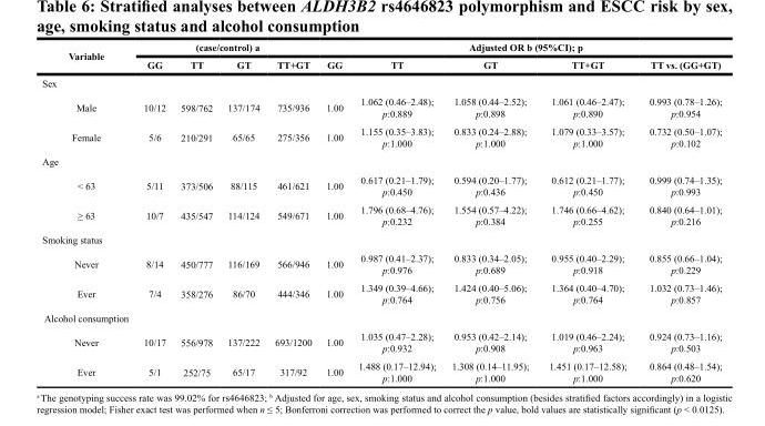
<table><thead><tr><td rowspan="2">Variable</td><td colspan="4">(case/control) a</td><td colspan="5">Adjusted OR b (95%CI); p</td></tr><tr><td>GG</td><td>TT</td><td>GT</td><td>TT+GT</td><td>GG</td><td>TT</td><td>GT</td><td>TT+GT</td><td>TT vs. (GG+GT)</td></tr></thead><tbody><tr><td colspan="10">Sex</td></tr><tr><td>Male</td><td>10/12</td><td>598/762</td><td>137/174</td><td>735/936</td><td>1.00</td><td>1.062 (0.46–2.48); p:0.889</td><td>1.058 (0.44–2.52); p:0.898</td><td>1.061 (0.46–2.47); p:0.890</td><td>0.993 (0.78–1.26); p:0.954</td></tr><tr><td>Female</td><td>5/6</td><td>210/291</td><td>65/65</td><td>275/356</td><td>1.00</td><td>1.155 (0.35–3.83); p:1.000</td><td>0.833 (0.24–2.88); p:1.000</td><td>1.079 (0.33–3.57); p:1.000</td><td>0.732 (0.50–1.07); p:0.102</td></tr><tr><td colspan="10">Age</td></tr><tr><td>&lt; 63</td><td>5/11</td><td>373/506</td><td>88/115</td><td>461/621</td><td>1.00</td><td>0.617 (0.21–1.79); p:0.450</td><td>0.594 (0.20–1.77); p:0.436</td><td>0.612 (0.21–1.77); p:0.450</td><td>0.999 (0.74–1.35); p:0.993</td></tr><tr><td>≥ 63</td><td>10/7</td><td>435/547</td><td>114/124</td><td>549/671</td><td>1.00</td><td>1.796 (0.68–4.76); p:0.232</td><td>1.554 (0.57–4.22); p:0.384</td><td>1.746 (0.66–4.62); p:0.255</td><td>0.840 (0.64–1.01); p:0.216</td></tr><tr><td colspan="10">Smoking status</td></tr><tr><td>Never</td><td>8/14</td><td>450/777</td><td>116/169</td><td>566/946</td><td>1.00</td><td>0.987 (0.41–2.37); p:0.976</td><td>0.833 (0.34–2.05); p:0.689</td><td>0.955 (0.40–2.29); p:0.918</td><td>0.855 (0.66–1.04); p:0.229</td></tr><tr><td>Ever</td><td>7/4</td><td>358/276</td><td>86/70</td><td>444/346</td><td>1.00</td><td>1.349 (0.39–4.66); p:0.764</td><td>1.424 (0.40–5.06); p:0.756</td><td>1.364 (0.40–4.70); p:0.764</td><td>1.032 (0.73–1.46); p:0.857</td></tr><tr><td colspan="10">Alcohol consumption</td></tr><tr><td>Never</td><td>10/17</td><td>556/978</td><td>137/222</td><td>693/1200</td><td>1.00</td><td>1.035 (0.47–2.28); p:0.932</td><td>0.953 (0.42–2.14); p:0.908</td><td>1.019 (0.46–2.24); p:0.963</td><td>0.924 (0.73–1.16); p:0.503</td></tr><tr><td>Ever</td><td>5/1</td><td>252/75</td><td>65/17</td><td>317/92</td><td>1.00</td><td>1.488 (0.17–12.94); p:1.000</td><td>1.308 (0.14–11.95); p:1.000</td><td>1.451 (0.17–12.58); p:1.000</td><td>0.864 (0.48–1.54); p:0.620</td></tr></tbody></table>